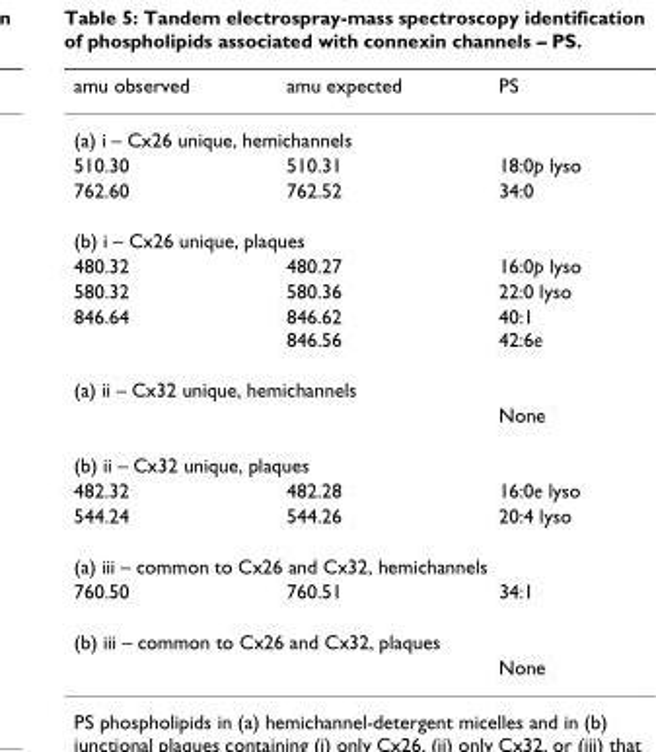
<table><thead><tr><td>amu observed</td><td>amu expected</td><td>PS</td></tr></thead><tbody><tr><td colspan="3">(a) i – Cx26 unique, hemichannels</td></tr><tr><td>510.30</td><td>510.31</td><td>18:0p lyso</td></tr><tr><td>762.60</td><td>762.52</td><td>34:0</td></tr><tr><td colspan="3">(b) i – Cx26 unique, plaques</td></tr><tr><td>480.32</td><td>480.27</td><td>16:0p lyso</td></tr><tr><td>580.32</td><td>580.36</td><td>22:0 lyso</td></tr><tr><td>846.64</td><td>846.62 846.56</td><td>40:1 42:6e</td></tr><tr><td colspan="3">(a) ii – Cx32 unique, hemichannels</td></tr><tr><td></td><td></td><td>None</td></tr><tr><td colspan="3">(b) ii – Cx32 unique, plaques</td></tr><tr><td>482.32</td><td>482.28</td><td>16:0e lyso</td></tr><tr><td>544.24</td><td>544.26</td><td>20:4 lyso</td></tr><tr><td colspan="3">(a) iii – common to Cx26 and Cx32, hemichannels</td></tr><tr><td>760.50</td><td>760.51</td><td>34:1</td></tr><tr><td colspan="3">(b) iii – common to Cx26 and Cx32, plaques</td></tr><tr><td></td><td></td><td>None</td></tr></tbody></table>